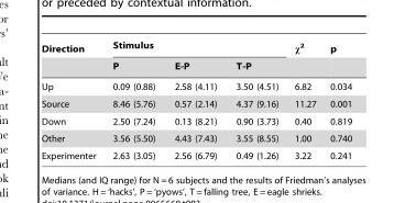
<table><thead><tr><td rowspan="2">Direction</td><td colspan="3">Stimulus</td><td rowspan="2">χ<sup>2</sup></td><td rowspan="2">p</td></tr><tr><td>P</td><td>E-P</td><td>T-P</td></tr></thead><tbody><tr><td>Up</td><td>0.09 (0.88)</td><td>2.58 (4.11)</td><td>3.50 (4.51)</td><td>6.82</td><td>0.034</td></tr><tr><td>Source</td><td>8.46 (5.76)</td><td>0.57 (2.14)</td><td>4.37 (9.16)</td><td>11.27</td><td>0.001</td></tr><tr><td>Down</td><td>2.50 (7.24)</td><td>0.13 (8.21)</td><td>0.90 (3.73)</td><td>0.40</td><td>0.819</td></tr><tr><td>Other</td><td>3.56 (5.50)</td><td>4.43 (7.43)</td><td>3.55 (8.55)</td><td>1.00</td><td>0.740</td></tr><tr><td>Experimenter</td><td>2.63 (3.05)</td><td>2.56 (6.79)</td><td>0.49 (1.26)</td><td>3.22</td><td>0.241</td></tr></tbody></table>